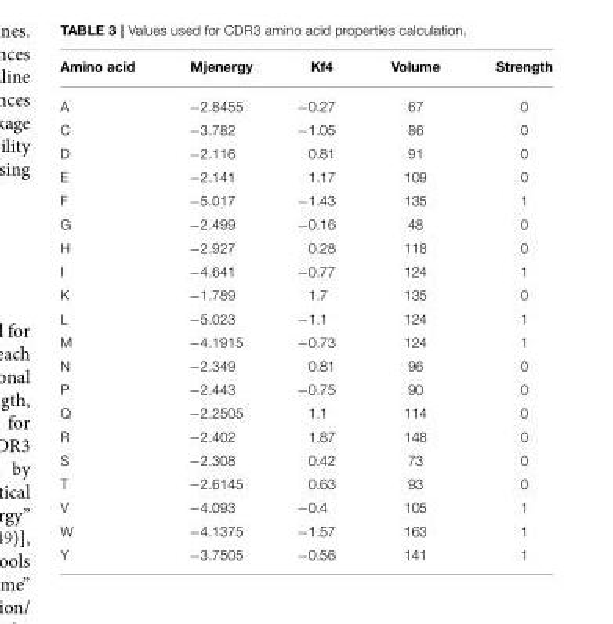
<table><thead><tr><td>Amino acid</td><td>Mjenergy</td><td>Kf4</td><td>Volume</td><td>Strength</td></tr></thead><tbody><tr><td>A</td><td>−2.8455</td><td>−0.27</td><td>67</td><td>0</td></tr><tr><td>C</td><td>−3.782</td><td>−1.05</td><td>86</td><td>0</td></tr><tr><td>D</td><td>−2.116</td><td>0.81</td><td>91</td><td>0</td></tr><tr><td>E</td><td>−2.141</td><td>1.17</td><td>109</td><td>0</td></tr><tr><td>F</td><td>−5.017</td><td>−1.43</td><td>135</td><td>1</td></tr><tr><td>G</td><td>−2.499</td><td>−0.16</td><td>48</td><td>0</td></tr><tr><td>H</td><td>−2.927</td><td>0.28</td><td>118</td><td>0</td></tr><tr><td>I</td><td>−4.641</td><td>−0.77</td><td>124</td><td>1</td></tr><tr><td>K</td><td>−1.789</td><td>1.7</td><td>135</td><td>0</td></tr><tr><td>L</td><td>−5.023</td><td>−1.1</td><td>124</td><td>1</td></tr><tr><td>M</td><td>−4.1915</td><td>−0.73</td><td>124</td><td>1</td></tr><tr><td>N</td><td>−2.349</td><td>0.81</td><td>96</td><td>0</td></tr><tr><td>P</td><td>−2.443</td><td>−0.75</td><td>90</td><td>0</td></tr><tr><td>Q</td><td>−2.2505</td><td>1.1</td><td>114</td><td>0</td></tr><tr><td>R</td><td>−2.402</td><td>1.87</td><td>148</td><td>0</td></tr><tr><td>S</td><td>−2.308</td><td>0.42</td><td>73</td><td>0</td></tr><tr><td>T</td><td>−2.6145</td><td>0.63</td><td>93</td><td>0</td></tr><tr><td>V</td><td>−4.093</td><td>−0.4</td><td>105</td><td>1</td></tr><tr><td>W</td><td>−4.1375</td><td>−1.57</td><td>163</td><td>1</td></tr><tr><td>Y</td><td>−3.7505</td><td>−0.56</td><td>141</td><td>1</td></tr></tbody></table>